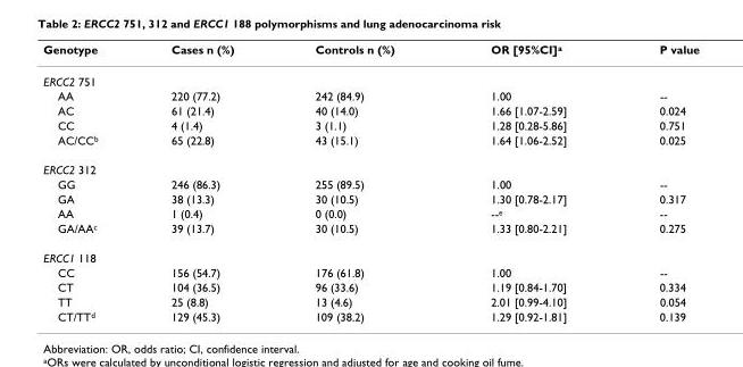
<table><thead><tr><td>Genotype</td><td>Cases n (%)</td><td>Controls n (%)</td><td>OR [95%CI]<sup>a</sup></td><td>P value</td></tr></thead><tbody><tr><td colspan="5">ERCC2 751</td></tr><tr><td>AA</td><td>220 (77.2)</td><td>242 (84.9)</td><td>1.00</td><td>--</td></tr><tr><td>AC</td><td>61 (21.4)</td><td>40 (14.0)</td><td>1.66 [1.07-2.59]</td><td>0.024</td></tr><tr><td>CC</td><td>4 (1.4)</td><td>3 (1.1)</td><td>1.28 [0.28-5.86]</td><td>0.751</td></tr><tr><td>AC/CC<sup>b</sup></td><td>65 (22.8)</td><td>43 (15.1)</td><td>1.64 [1.06-2.52]</td><td>0.025</td></tr><tr><td colspan="5">ERCC2 312</td></tr><tr><td>GG</td><td>246 (86.3)</td><td>255 (89.5)</td><td>1.00</td><td>--</td></tr><tr><td>GA</td><td>38 (13.3)</td><td>30 (10.5)</td><td>1.30 [0.78-2.17]</td><td>0.317</td></tr><tr><td>AA</td><td>1 (0.4)</td><td>0 (0.0)</td><td>--<sup>e</sup></td><td>--</td></tr><tr><td>GA/AA<sup>c</sup></td><td>39 (13.7)</td><td>30 (10.5)</td><td>1.33 [0.80-2.21]</td><td>0.275</td></tr><tr><td colspan="5">ERCC1 118</td></tr><tr><td>CC</td><td>156 (54.7)</td><td>176 (61.8)</td><td>1.00</td><td>--</td></tr><tr><td>CT</td><td>104 (36.5)</td><td>96 (33.6)</td><td>1.19 [0.84-1.70]</td><td>0.334</td></tr><tr><td>TT</td><td>25 (8.8)</td><td>13 (4.6)</td><td>2.01 [0.99-4.10]</td><td>0.054</td></tr><tr><td>CT/TT<sup>d</sup></td><td>129 (45.3)</td><td>109 (38.2)</td><td>1.29 [0.92-1.81]</td><td>0.139</td></tr></tbody></table>